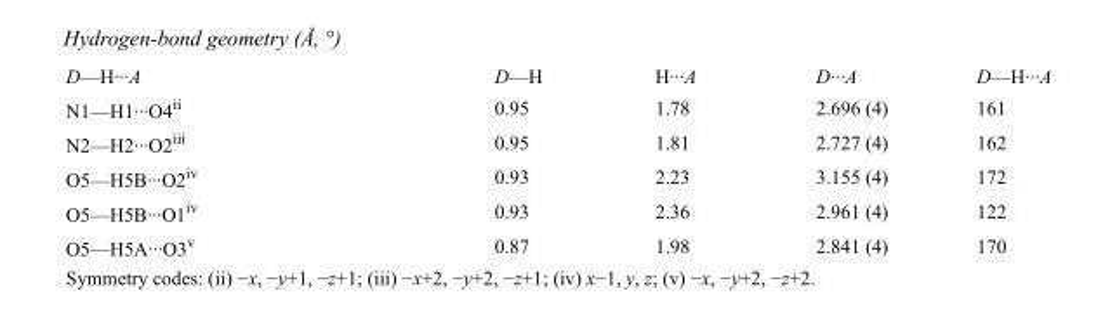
<table><tbody><tr><td>D—H···A</td><td>D—H</td><td>H···A</td><td>D···A</td><td>D—H···A</td></tr><tr><td>N1—H1···O4<sup>ii</sup></td><td>0.95</td><td>1.78</td><td>2.696 (4)</td><td>161</td></tr><tr><td>N2—H2···O2<sup>iii</sup></td><td>0.95</td><td>1.81</td><td>2.727 (4)</td><td>162</td></tr><tr><td>O5—H5B···O2<sup>iv</sup></td><td>0.93</td><td>2.23</td><td>3.155 (4)</td><td>172</td></tr><tr><td>O5—H5B···O1<sup>iv</sup></td><td>0.93</td><td>2.36</td><td>2.961 (4)</td><td>122</td></tr><tr><td>O5—H5A···O3<sup>v</sup></td><td>0.87</td><td>1.98</td><td>2.841 (4)</td><td>170</td></tr></tbody></table>